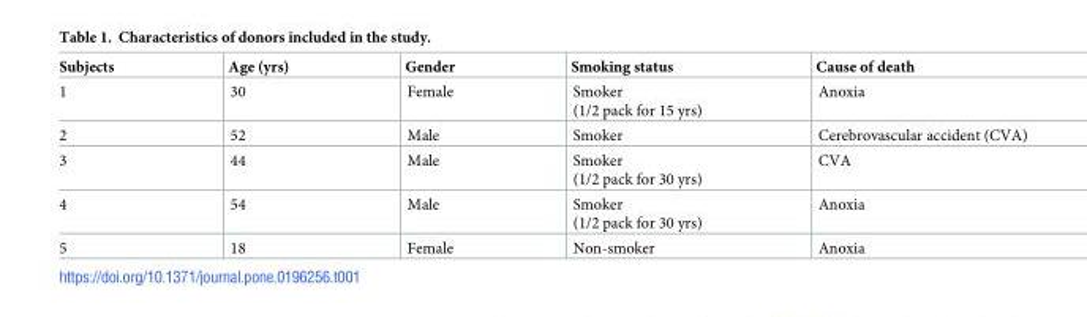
<table><thead><tr><td>Subjects</td><td>Age (yrs)</td><td>Gender</td><td>Smoking status</td><td>Cause of death</td></tr></thead><tbody><tr><td>1</td><td>30</td><td>Female</td><td>Smoker (1/2 pack for 15 yrs)</td><td>Anoxia</td></tr><tr><td>2</td><td>52</td><td>Male</td><td>Smoker</td><td>Cerebrovascular accident (CVA)</td></tr><tr><td>3</td><td>44</td><td>Male</td><td>Smoker (1/2 pack for 30 yrs)</td><td>CVA</td></tr><tr><td>4</td><td>54</td><td>Male</td><td>Smoker (1/2 pack for 30 yrs)</td><td>Anoxia</td></tr><tr><td>5</td><td>18</td><td>Female</td><td>Non-smoker</td><td>Anoxia</td></tr></tbody></table>